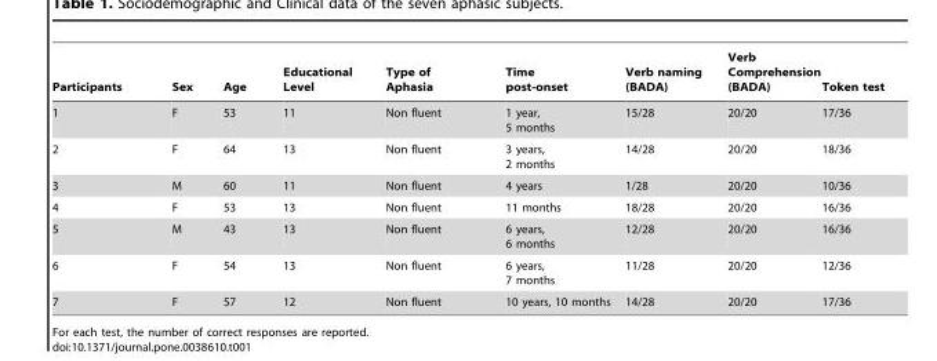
<table><thead><tr><td>Participants</td><td>Sex</td><td>Age</td><td>Educational Level</td><td>Type of Aphasia</td><td>Time post-onset</td><td>Verb naming (BADA)</td><td>Verb Comprehension (BADA)</td><td>Token test</td></tr></thead><tbody><tr><td>1</td><td>F</td><td>53</td><td>11</td><td>Non fluent</td><td>1 year, 5 months</td><td>15/28</td><td>20/20</td><td>17/36</td></tr><tr><td>2</td><td>F</td><td>64</td><td>13</td><td>Non fluent</td><td>3 years, 2 months</td><td>14/28</td><td>20/20</td><td>18/36</td></tr><tr><td>3</td><td>M</td><td>60</td><td>11</td><td>Non fluent</td><td>4 years</td><td>1/28</td><td>20/20</td><td>10/36</td></tr><tr><td>4</td><td>F</td><td>53</td><td>13</td><td>Non fluent</td><td>11 months</td><td>18/28</td><td>20/20</td><td>16/36</td></tr><tr><td>5</td><td>M</td><td>43</td><td>13</td><td>Non fluent</td><td>6 years, 6 months</td><td>12/28</td><td>20/20</td><td>16/36</td></tr><tr><td>6</td><td>F</td><td>54</td><td>13</td><td>Non fluent</td><td>6 years, 7 months</td><td>11/28</td><td>20/20</td><td>12/36</td></tr><tr><td>7</td><td>F</td><td>57</td><td>12</td><td>Non fluent</td><td>10 years, 10 months</td><td>14/28</td><td>20/20</td><td>17/36</td></tr></tbody></table>